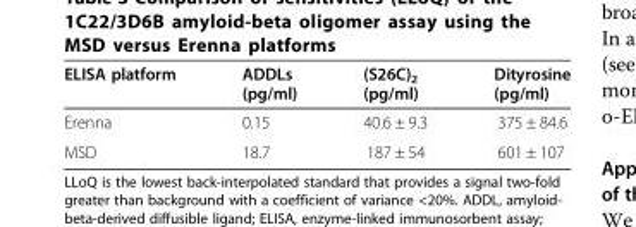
<table><thead><tr><td>ELISA platform</td><td>ADDLs (pg/ml)</td><td>(S26C)<sub>2</sub> (pg/ml)</td><td>Dityrosine (pg/ml)</td></tr></thead><tbody><tr><td>Erenna</td><td>0.15</td><td>40.6 ± 9.3</td><td>375 ± 84.6</td></tr><tr><td>MSD</td><td>18.7</td><td>187 ± 54</td><td>601 ± 107</td></tr></tbody></table>